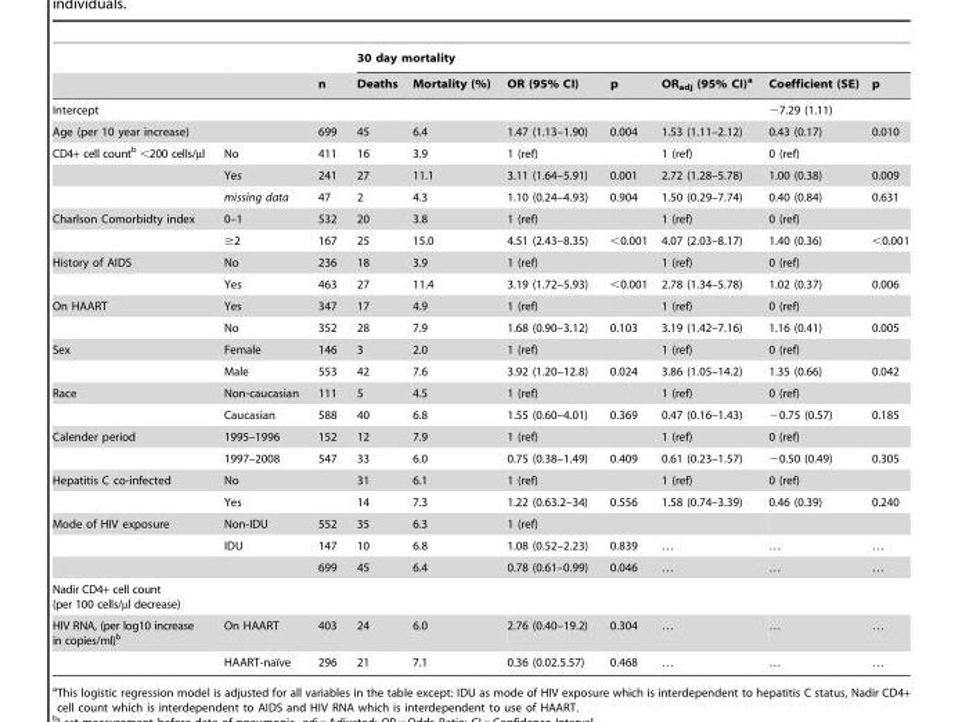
<table><thead><tr><td rowspan="2"></td><td rowspan="2"></td><td rowspan="2">n</td><td colspan="7">30 day mortality</td></tr><tr><td>Deaths</td><td>Mortality (%)</td><td>OR (95% CI)</td><td>p</td><td>OR<sub>adj</sub> (95% CI)<sup>a</sup></td><td>Coefficient (SE)</td><td>p</td></tr></thead><tbody><tr><td>Intercept</td><td></td><td></td><td></td><td></td><td></td><td></td><td></td><td>−7.29 (1.11)</td><td></td></tr><tr><td colspan="2">Age (per 10 year increase)</td><td>699</td><td>45</td><td>6.4</td><td>1.47 (1.13–1.90)</td><td>0.004</td><td>1.53 (1.11–2.12)</td><td>0.43 (0.17)</td><td>0.010</td></tr><tr><td rowspan="3">CD4+ cell count<sup>b</sup> &lt;200 cells/µl</td><td>No</td><td>411</td><td>16</td><td>3.9</td><td>1 (ref)</td><td></td><td>1 (ref)</td><td>0 (ref)</td><td></td></tr><tr><td>Yes</td><td>241</td><td>27</td><td>11.1</td><td>3.11 (1.64–5.91)</td><td>0.001</td><td>2.72 (1.28–5.78)</td><td>1.00 (0.38)</td><td>0.009</td></tr><tr><td>missing data</td><td>47</td><td>2</td><td>4.3</td><td>1.10 (0.24–4.93)</td><td>0.904</td><td>1.50 (0.29–7.74)</td><td>0.40 (0.84)</td><td>0.631</td></tr><tr><td rowspan="2">Charlson Comorbidty index</td><td>0–1</td><td>532</td><td>20</td><td>3.8</td><td>1 (ref)</td><td></td><td>1 (ref)</td><td>0 (ref)</td><td></td></tr><tr><td>≥2</td><td>167</td><td>25</td><td>15.0</td><td>4.51 (2.43–8.35)</td><td>&lt;0.001</td><td>4.07 (2.03–8.17)</td><td>1.40 (0.36)</td><td>&lt;0.001</td></tr><tr><td rowspan="2">History of AIDS</td><td>No</td><td>236</td><td>18</td><td>3.9</td><td>1 (ref)</td><td></td><td>1 (ref)</td><td>0 (ref)</td><td></td></tr><tr><td>Yes</td><td>463</td><td>27</td><td>11.4</td><td>3.19 (1.72–5.93)</td><td>&lt;0.001</td><td>2.78 (1.34–5.78)</td><td>1.02 (0.37)</td><td>0.006</td></tr><tr><td rowspan="2">On HAART</td><td>Yes</td><td>347</td><td>17</td><td>4.9</td><td>1 (ref)</td><td></td><td>1 (ref)</td><td>0 (ref)</td><td></td></tr><tr><td>No</td><td>352</td><td>28</td><td>7.9</td><td>1.68 (0.90–3.12)</td><td>0.103</td><td>3.19 (1.42–7.16)</td><td>1.16 (0.41)</td><td>0.005</td></tr><tr><td rowspan="2">Sex</td><td>Female</td><td>146</td><td>3</td><td>2.0</td><td>1 (ref)</td><td></td><td>1 (ref)</td><td>0 (ref)</td><td></td></tr><tr><td>Male</td><td>553</td><td>42</td><td>7.6</td><td>3.92 (1.20–12.8)</td><td>0.024</td><td>3.86 (1.05–14.2)</td><td>1.35 (0.66)</td><td>0.042</td></tr><tr><td rowspan="2">Race</td><td>Non-caucasian</td><td>111</td><td>5</td><td>4.5</td><td>1 (ref)</td><td></td><td>1 (ref)</td><td>0 (ref)</td><td></td></tr><tr><td>Caucasian</td><td>588</td><td>40</td><td>6.8</td><td>1.55 (0.60–4.01)</td><td>0.369</td><td>0.47 (0.16–1.43)</td><td>−0.75 (0.57)</td><td>0.185</td></tr><tr><td rowspan="2">Calender period</td><td>1995–1996</td><td>152</td><td>12</td><td>7.9</td><td>1 (ref)</td><td></td><td>1 (ref)</td><td>0 (ref)</td><td></td></tr><tr><td>1997–2008</td><td>547</td><td>33</td><td>6.0</td><td>0.75 (0.38–1.49)</td><td>0.409</td><td>0.61 (0.23–1.57)</td><td>−0.50 (0.49)</td><td>0.305</td></tr><tr><td rowspan="2">Hepatitis C co-infected</td><td>No</td><td></td><td>31</td><td>6.1</td><td>1 (ref)</td><td></td><td>1 (ref)</td><td>0 (ref)</td><td></td></tr><tr><td>Yes</td><td></td><td>14</td><td>7.3</td><td>1.22 (0.63.2–34)</td><td>0.556</td><td>1.58 (0.74–3.39)</td><td>0.46 (0.39)</td><td>0.240</td></tr><tr><td rowspan="3">Mode of HIV exposure</td><td>Non-IDU</td><td>552</td><td>35</td><td>6.3</td><td>1 (ref)</td><td></td><td></td><td></td><td></td></tr><tr><td>IDU</td><td>147</td><td>10</td><td>6.8</td><td>1.08 (0.52–2.23)</td><td>0.839</td><td>…</td><td>…</td><td>…</td></tr><tr><td></td><td>699</td><td>45</td><td>6.4</td><td>0.78 (0.61–0.99)</td><td>0.046</td><td>…</td><td>…</td><td>…</td></tr><tr><td colspan="10">Nadir CD4+ cell count (per 100 cells/µl decrease)</td></tr><tr><td rowspan="2">HIV RNA, (per log10 increase in copies/ml)<sup>b</sup></td><td>On HAART</td><td>403</td><td>24</td><td>6.0</td><td>2.76 (0.40–19.2)</td><td>0.304</td><td>…</td><td>…</td><td>…</td></tr><tr><td>HAART-naı¨ve</td><td>296</td><td>21</td><td>7.1</td><td>0.36 (0.02.5.57)</td><td>0.468</td><td>…</td><td>…</td><td>…</td></tr></tbody></table>